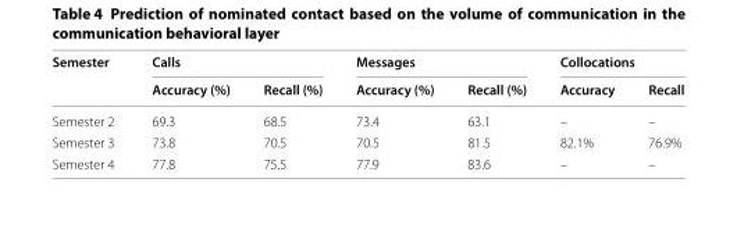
<table><thead><tr><td rowspan="2">Semester</td><td colspan="2">Calls</td><td colspan="2">Messages</td><td colspan="2">Collocations</td></tr><tr><td>Accuracy (%)</td><td>Recall (%)</td><td>Accuracy (%)</td><td>Recall (%)</td><td>Accuracy</td><td>Recall</td></tr></thead><tbody><tr><td>Semester 2</td><td>69.3</td><td>68.5</td><td>73.4</td><td>63.1</td><td>–</td><td>–</td></tr><tr><td>Semester 3</td><td>73.8</td><td>70.5</td><td>70.5</td><td>81.5</td><td>82.1%</td><td>76.9%</td></tr><tr><td>Semester 4</td><td>77.8</td><td>75.5</td><td>77.9</td><td>83.6</td><td>–</td><td>–</td></tr></tbody></table>